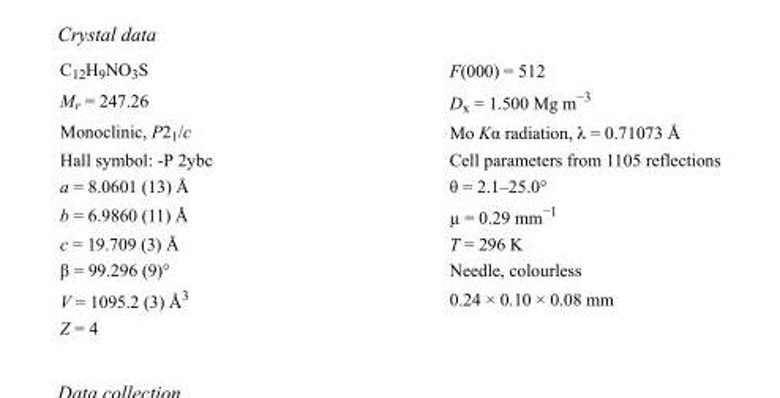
<table><tbody><tr><td>C<sub>12</sub>H<sub>9</sub>NO<sub>3</sub>S</td><td>F(000) = 512</td></tr><tr><td>M<sub>r</sub> = 247.26</td><td>D<sub>x</sub> = 1.500 Mg m<sup>−3</sup></td></tr><tr><td>Monoclinic, P2<sub>1</sub>/c</td><td>Mo Kα radiation, λ = 0.71073 Å</td></tr><tr><td>Hall symbol: -P 2ybc</td><td>Cell parameters from 1105 reflections</td></tr><tr><td>a = 8.0601 (13) Å</td><td>θ = 2.1–25.0°</td></tr><tr><td>b = 6.9860 (11) Å</td><td>µ = 0.29 mm<sup>−1</sup></td></tr><tr><td>c = 19.709 (3) Å</td><td>T = 296 K</td></tr><tr><td>β = 99.296 (9)°</td><td>Needle, colourless</td></tr><tr><td>V = 1095.2 (3) Å<sup>3</sup></td><td>0.24 × 0.10 × 0.08 mm</td></tr><tr><td>Z = 4</td><td></td></tr></tbody></table>